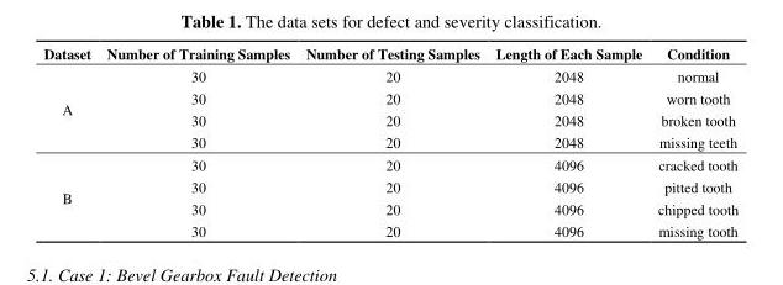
<table><thead><tr><td>Dataset</td><td>Number of Training Samples</td><td>Number of Testing Samples</td><td>Length of Each Sample</td><td>Condition</td></tr></thead><tbody><tr><td rowspan="4">A</td><td>30</td><td>20</td><td>2048</td><td>normal</td></tr><tr><td>30</td><td>20</td><td>2048</td><td>worn tooth</td></tr><tr><td>30</td><td>20</td><td>2048</td><td>broken tooth</td></tr><tr><td>30</td><td>20</td><td>2048</td><td>missing teeth</td></tr><tr><td rowspan="4">B</td><td>30</td><td>20</td><td>4096</td><td>cracked tooth</td></tr><tr><td>30</td><td>20</td><td>4096</td><td>pitted tooth</td></tr><tr><td>30</td><td>20</td><td>4096</td><td>chipped tooth</td></tr><tr><td>30</td><td>20</td><td>4096</td><td>missing tooth</td></tr></tbody></table>